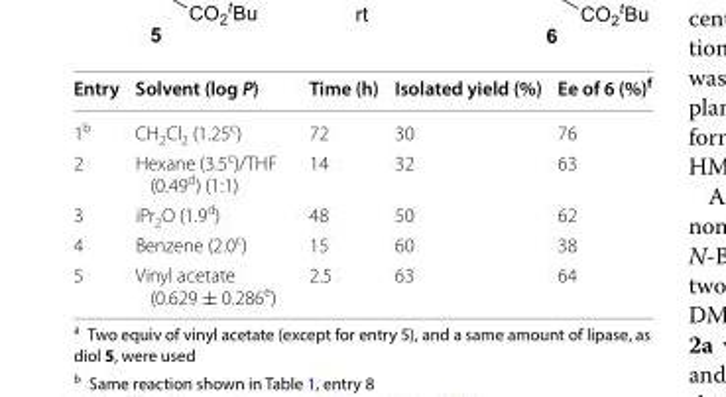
<table><thead><tr><td>Entry</td><td>Solvent (log P)</td><td>Time (h)</td><td>Isolated yield (%)</td><td>Ee of 6 (%)<sup>f</sup></td></tr></thead><tbody><tr><td>1<sup>b</sup></td><td>CH<sub>2</sub>Cl<sub>2</sub> (1.25<sup>c</sup>)</td><td>72</td><td>30</td><td>76</td></tr><tr><td>2</td><td>Hexane (3.5<sup>c</sup>)/THF (0.49<sup>d</sup>) (1:1)</td><td>14</td><td>32</td><td>63</td></tr><tr><td>3</td><td>iPr<sub>2</sub>O (1.9<sup>d</sup>)</td><td>48</td><td>50</td><td>62</td></tr><tr><td>4</td><td>Benzene (2.0<sup>c</sup>)</td><td>15</td><td>60</td><td>38</td></tr><tr><td>5</td><td>Vinyl acetate (0.629 ± 0.286<sup>e</sup>)</td><td>2.5</td><td>63</td><td>64</td></tr></tbody></table>